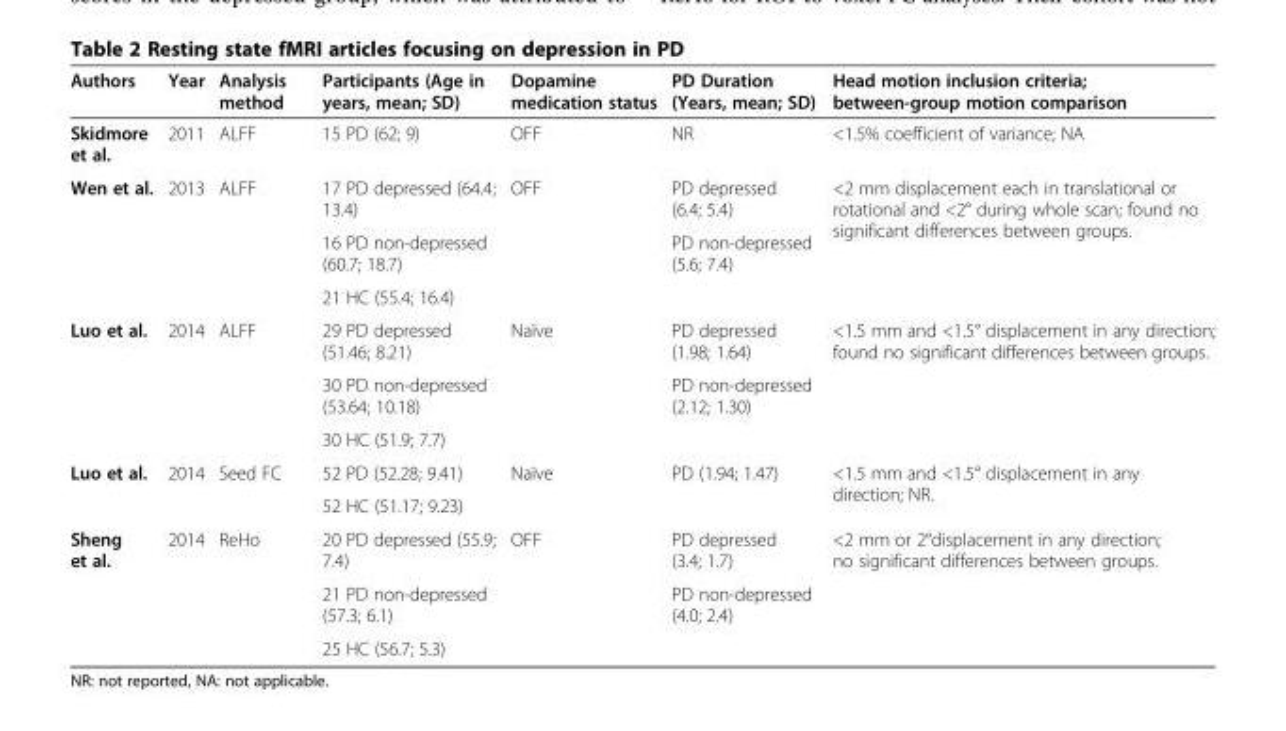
<table><thead><tr><td>Authors</td><td>Year</td><td>Analysis method</td><td>Participants (Age in years, mean; SD)</td><td>Dopamine medication status</td><td>PD Duration (Years, mean; SD)</td><td>Head motion inclusion criteria; between-group motion comparison</td></tr></thead><tbody><tr><td>Skidmore et al.</td><td>2011</td><td>ALFF</td><td>15 PD (62; 9)</td><td>OFF</td><td>NR</td><td>&lt;1.5% coefficient of variance; NA</td></tr><tr><td rowspan="3">Wen et al.</td><td rowspan="3">2013</td><td rowspan="3">ALFF</td><td>17 PD depressed (64.4; 13.4)</td><td rowspan="3">OFF</td><td>PD depressed (6.4; 5.4)</td><td rowspan="3">&lt;2 mm displacement each in translational or rotational and &lt;2° during whole scan; found no significant differences between groups.</td></tr><tr><td>16 PD non-depressed (60.7; 18.7)</td><td rowspan="2">PD non-depressed (5.6; 7.4)</td></tr><tr><td>21 HC (55.4; 16.4)</td></tr><tr><td rowspan="3">Luo et al.</td><td rowspan="3">2014</td><td rowspan="3">ALFF</td><td>29 PD depressed (51.46; 8.21)</td><td rowspan="3">Naïve</td><td>PD depressed (1.98; 1.64)</td><td rowspan="3">&lt;1.5 mm and &lt;1.5° displacement in any direction; found no significant differences between groups.</td></tr><tr><td>30 PD non-depressed (53.64; 10.18)</td><td rowspan="2">PD non-depressed (2.12; 1.30)</td></tr><tr><td>30 HC (51.9; 7.7)</td></tr><tr><td rowspan="2">Luo et al.</td><td rowspan="2">2014</td><td rowspan="2">Seed FC</td><td>52 PD (52.28; 9.41)</td><td rowspan="2">Naïve</td><td rowspan="2">PD (1.94; 1.47)</td><td rowspan="2">&lt;1.5 mm and &lt;1.5° displacement in any direction; NR.</td></tr><tr><td>52 HC (51.17; 9.23)</td></tr><tr><td rowspan="3">Sheng et al.</td><td rowspan="3">2014</td><td rowspan="3">ReHo</td><td>20 PD depressed (55.9; 7.4)</td><td rowspan="3">OFF</td><td>PD depressed (3.4; 1.7)</td><td rowspan="3">&lt;2 mm or 2°displacement in any direction; no significant differences between groups.</td></tr><tr><td>21 PD non-depressed (57.3; 6.1)</td><td rowspan="2">PD non-depressed (4.0; 2.4)</td></tr><tr><td>25 HC (56.7; 5.3)</td></tr></tbody></table>